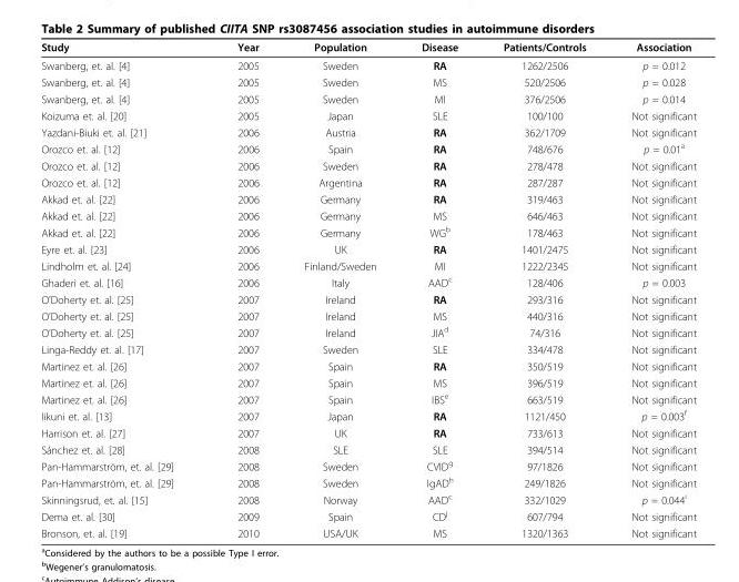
<table><thead><tr><td>Study</td><td>Year</td><td>Population</td><td>Disease</td><td>Patients/Controls</td><td>Association</td></tr></thead><tbody><tr><td>Swanberg, et. al. [4]</td><td>2005</td><td>Sweden</td><td>RA</td><td>1262/2506</td><td>p = 0.012</td></tr><tr><td>Swanberg, et. al. [4]</td><td>2005</td><td>Sweden</td><td>MS</td><td>520/2506</td><td>p = 0.028</td></tr><tr><td>Swanberg, et. al. [4]</td><td>2005</td><td>Sweden</td><td>MI</td><td>376/2506</td><td>p = 0.014</td></tr><tr><td>Koizuma et. al. [20]</td><td>2005</td><td>Japan</td><td>SLE</td><td>100/100</td><td>Not significant</td></tr><tr><td>Yazdani-Biuki et. al. [21]</td><td>2006</td><td>Austria</td><td>RA</td><td>362/1709</td><td>Not significant</td></tr><tr><td>Orozco et. al. [12]</td><td>2006</td><td>Spain</td><td>RA</td><td>748/676</td><td>p = 0.01<sup>a</sup></td></tr><tr><td>Orozco et. al. [12]</td><td>2006</td><td>Sweden</td><td>RA</td><td>278/478</td><td>Not significant</td></tr><tr><td>Orozco et. al. [12]</td><td>2006</td><td>Argentina</td><td>RA</td><td>287/287</td><td>Not significant</td></tr><tr><td>Akkad et. al. [22]</td><td>2006</td><td>Germany</td><td>RA</td><td>319/463</td><td>Not significant</td></tr><tr><td>Akkad et. al. [22]</td><td>2006</td><td>Germany</td><td>MS</td><td>646/463</td><td>Not significant</td></tr><tr><td>Akkad et. al. [22]</td><td>2006</td><td>Germany</td><td>WG<sup>b</sup></td><td>178/463</td><td>Not significant</td></tr><tr><td>Eyre et. al. [23]</td><td>2006</td><td>UK</td><td>RA</td><td>1401/2475</td><td>Not significant</td></tr><tr><td>Lindholm et. al. [24]</td><td>2006</td><td>Finland/Sweden</td><td>MI</td><td>1222/2345</td><td>Not significant</td></tr><tr><td>Ghaderi et. al. [16]</td><td>2006</td><td>Italy</td><td>AAD<sup>c</sup></td><td>128/406</td><td>p = 0.003</td></tr><tr><td>O’Doherty et. al. [25]</td><td>2007</td><td>Ireland</td><td>RA</td><td>293/316</td><td>Not significant</td></tr><tr><td>O’Doherty et. al. [25]</td><td>2007</td><td>Ireland</td><td>MS</td><td>440/316</td><td>Not significant</td></tr><tr><td>O’Doherty et. al. [25]</td><td>2007</td><td>Ireland</td><td>JIA<sup>d</sup></td><td>74/316</td><td>Not significant</td></tr><tr><td>Linga-Reddy et. al. [17]</td><td>2007</td><td>Sweden</td><td>SLE</td><td>334/478</td><td>Not significant</td></tr><tr><td>Martinez et. al. [26]</td><td>2007</td><td>Spain</td><td>RA</td><td>350/519</td><td>Not significant</td></tr><tr><td>Martinez et. al. [26]</td><td>2007</td><td>Spain</td><td>MS</td><td>396/519</td><td>Not significant</td></tr><tr><td>Martinez et. al. [26]</td><td>2007</td><td>Spain</td><td>IBS<sup>e</sup></td><td>663/519</td><td>Not significant</td></tr><tr><td>Iikuni et. al. [13]</td><td>2007</td><td>Japan</td><td>RA</td><td>1121/450</td><td>p = 0.003<sup>f</sup></td></tr><tr><td>Harrison et. al. [27]</td><td>2007</td><td>UK</td><td>RA</td><td>733/613</td><td>Not significant</td></tr><tr><td>Sánchez et. al. [28]</td><td>2008</td><td>SLE</td><td>SLE</td><td>394/514</td><td>Not significant</td></tr><tr><td>Pan-Hammarström, et. al. [29]</td><td>2008</td><td>Sweden</td><td>CVID<sup>g</sup></td><td>97/1826</td><td>Not significant</td></tr><tr><td>Pan-Hammarström, et. al. [29]</td><td>2008</td><td>Sweden</td><td>IgAD<sup>h</sup></td><td>249/1826</td><td>Not significant</td></tr><tr><td>Skinningsrud, et. al. [15]</td><td>2008</td><td>Norway</td><td>AAD<sup>c</sup></td><td>332/1029</td><td>p = 0.044<sup>i</sup></td></tr><tr><td>Dema et. al. [30]</td><td>2009</td><td>Spain</td><td>CD<sup>j</sup></td><td>607/794</td><td>Not significant</td></tr><tr><td>Bronson, et. al. [19]</td><td>2010</td><td>USA/UK</td><td>MS</td><td>1320/1363</td><td>Not significant</td></tr></tbody></table>